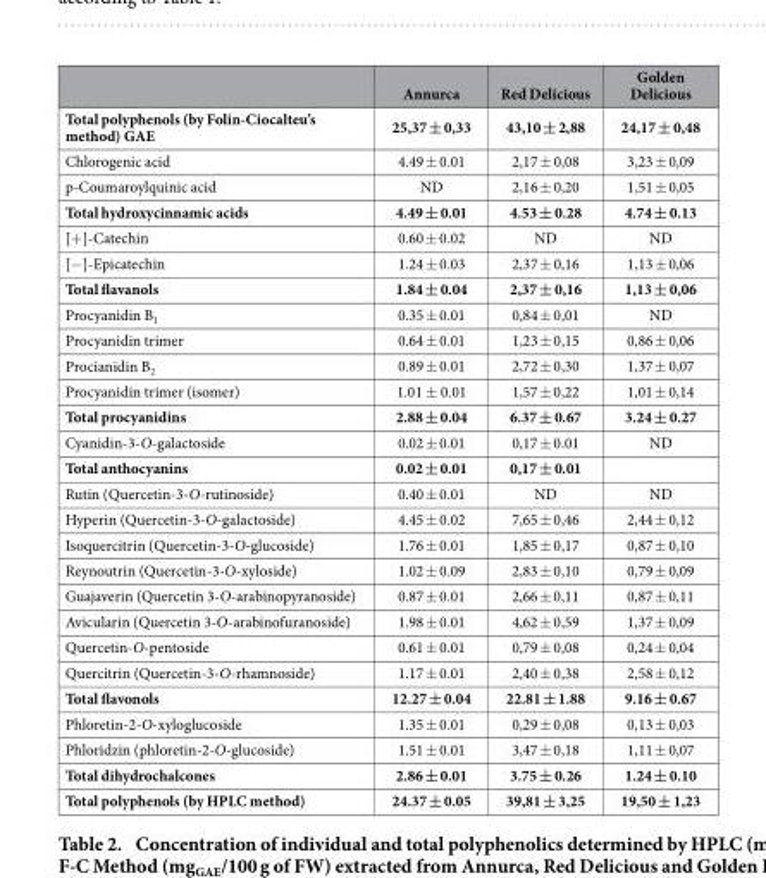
<table><thead><tr><td></td><td>Annurca</td><td>Red Delicious</td><td>Golden Delicious</td></tr></thead><tbody><tr><td>Total polyphenols (by Folin-Ciocalteu’s method) GAE</td><td>25,37 ± 0,33</td><td>43,10 ± 2,88</td><td>24,17 ± 0,48</td></tr><tr><td>Chlorogenic acid</td><td>4.49 ± 0.01</td><td>2,17 ± 0,08</td><td>3,23 ± 0,09</td></tr><tr><td>p-Coumaroylquinic acid</td><td>ND</td><td>2,16 ± 0,20</td><td>1,51 ± 0,05</td></tr><tr><td>Total hydroxycinnamic acids</td><td>4.49 ± 0.01</td><td>4.53 ± 0.28</td><td>4.74 ± 0.13</td></tr><tr><td>[+ ]-Catechin</td><td>0.60 ± 0.02</td><td>ND</td><td>ND</td></tr><tr><td>[− ]-Epicatechin</td><td>1.24 ± 0.03</td><td>2,37 ± 0,16</td><td>1,13 ± 0,06</td></tr><tr><td>Total flavanols</td><td>1.84 ± 0.04</td><td>2,37 ± 0,16</td><td>1,13 ± 0,06</td></tr><tr><td>Procyanidin B<sub>1</sub></td><td>0.35 ± 0.01</td><td>0,84 ± 0,01</td><td>ND</td></tr><tr><td>Procyanidin trimer</td><td>0.64 ± 0.01</td><td>1,23 ± 0,15</td><td>0,86 ± 0,06</td></tr><tr><td>Procianidin B<sub>2</sub></td><td>0.89 ± 0.01</td><td>2,72 ± 0,30</td><td>1,37 ± 0,07</td></tr><tr><td>Procyanidin trimer (isomer)</td><td>1.01 ± 0.01</td><td>1,57 ± 0,22</td><td>1,01 ± 0,14</td></tr><tr><td>Total procyanidins</td><td>2.88 ± 0.04</td><td>6.37 ± 0.67</td><td>3.24 ± 0.27</td></tr><tr><td>Cyanidin-3-O-galactoside</td><td>0.02 ± 0.01</td><td>0,17 ± 0.01</td><td>ND</td></tr><tr><td>Total anthocyanins</td><td>0.02 ± 0.01</td><td>0,17 ± 0.01</td><td></td></tr><tr><td>Rutin (Quercetin-3-O-rutinoside)</td><td>0.40 ± 0.01</td><td>ND</td><td>ND</td></tr><tr><td>Hyperin (Quercetin-3-O-galactoside)</td><td>4.45 ± 0.02</td><td>7,65 ± 0,46</td><td>2,44 ± 0,12</td></tr><tr><td>Isoquercitrin (Quercetin-3-O-glucoside)</td><td>1.76 ± 0.01</td><td>1,85 ± 0,17</td><td>0,87 ± 0,10</td></tr><tr><td>Reynoutrin (Quercetin-3-O-xyloside)</td><td>1.02 ± 0.09</td><td>2,83 ± 0,10</td><td>0,79 ± 0,09</td></tr><tr><td>Guajaverin (Quercetin 3-O-arabinopyranoside)</td><td>0.87 ± 0.01</td><td>2,66 ± 0,11</td><td>0,87 ± 0,11</td></tr><tr><td>Avicularin (Quercetin 3-O-arabinofuranoside)</td><td>1.98 ± 0.01</td><td>4,62 ± 0,59</td><td>1,37 ± 0,09</td></tr><tr><td>Quercetin-O-pentoside</td><td>0.61 ± 0.01</td><td>0,79 ± 0,08</td><td>0,24 ± 0,04</td></tr><tr><td>Quercitrin (Quercetin-3-O-rhamnoside)</td><td>1.17 ± 0.01</td><td>2,40 ± 0,38</td><td>2,58 ± 0,12</td></tr><tr><td>Total flavonols</td><td>12.27 ± 0.04</td><td>22.81 ± 1.88</td><td>9.16 ± 0.67</td></tr><tr><td>Phloretin-2-O-xyloglucoside</td><td>1.35 ± 0.01</td><td>0,29 ± 0,08</td><td>0,13 ± 0,03</td></tr><tr><td>Phloridzin (phloretin-2-O-glucoside)</td><td>1.51 ± 0.01</td><td>3,47 ± 0,18</td><td>1,11 ± 0,07</td></tr><tr><td>Total dihydrochalcones</td><td>2.86 ± 0.01</td><td>3.75 ± 0.26</td><td>1.24 ± 0.10</td></tr><tr><td>Total polyphenols (by HPLC method)</td><td>24.37 ± 0.05</td><td>39,81 ± 3,25</td><td>19,50 ± 1,23</td></tr></tbody></table>